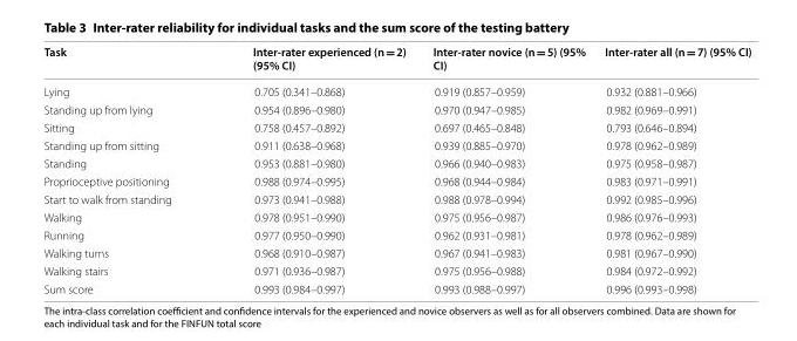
<table><thead><tr><td>Task</td><td>Inter‑rater experienced (n = 2) (95% CI)</td><td>Inter‑rater novice (n = 5) (95% CI)</td><td>Inter‑rater all (n = 7) (95% CI)</td></tr></thead><tbody><tr><td>Lying</td><td>0.705 (0.341–0.868)</td><td>0.919 (0.857–0.959)</td><td>0.932 (0.881–0.966)</td></tr><tr><td>Standing up from lying</td><td>0.954 (0.896–0.980)</td><td>0.970 (0.947–0.985)</td><td>0.982 (0.969–0.991)</td></tr><tr><td>Sitting</td><td>0.758 (0.457–0.892)</td><td>0.697 (0.465–0.848)</td><td>0.793 (0.646–0.894)</td></tr><tr><td>Standing up from sitting</td><td>0.911 (0.638–0.968)</td><td>0.939 (0.885–0.970)</td><td>0.978 (0.962–0.989)</td></tr><tr><td>Standing</td><td>0.953 (0.881–0.980)</td><td>0.966 (0.940–0.983)</td><td>0.975 (0.958–0.987)</td></tr><tr><td>Proprioceptive positioning</td><td>0.988 (0.974–0.995)</td><td>0.968 (0.944–0.984)</td><td>0.983 (0.971–0.991)</td></tr><tr><td>Start to walk from standing</td><td>0.973 (0.941–0.988)</td><td>0.988 (0.978–0.994)</td><td>0.992 (0.985–0.996)</td></tr><tr><td>Walking</td><td>0.978 (0.951–0.990)</td><td>0.975 (0.956–0.987)</td><td>0.986 (0.976–0.993)</td></tr><tr><td>Running</td><td>0.977 (0.950–0.990)</td><td>0.962 (0.931–0.981)</td><td>0.978 (0.962–0.989)</td></tr><tr><td>Walking turns</td><td>0.968 (0.910–0.987)</td><td>0.967 (0.941–0.983)</td><td>0.981 (0.967–0.990)</td></tr><tr><td>Walking stairs</td><td>0.971 (0.936–0.987)</td><td>0.975 (0.956–0.988)</td><td>0.984 (0.972–0.992)</td></tr><tr><td>Sum score</td><td>0.993 (0.984–0.997)</td><td>0.993 (0.988–0.997)</td><td>0.996 (0.993–0.998)</td></tr></tbody></table>